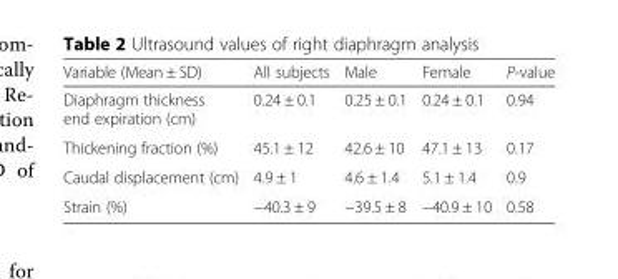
<table><thead><tr><td>Variable (Mean ± SD)</td><td>All subjects</td><td>Male</td><td>Female</td><td>P-value</td></tr></thead><tbody><tr><td>Diaphragm thickness end expiration (cm)</td><td>0.24 ± 0.1</td><td>0.25 ± 0.1</td><td>0.24 ± 0.1</td><td>0.94</td></tr><tr><td>Thickening fraction (%)</td><td>45.1 ± 12</td><td>42.6 ± 10</td><td>47.1 ± 13</td><td>0.17</td></tr><tr><td>Caudal displacement (cm)</td><td>4.9 ± 1</td><td>4.6 ± 1.4</td><td>5.1 ± 1.4</td><td>0.9</td></tr><tr><td>Strain (%)</td><td>−40.3 ± 9</td><td>−39.5 ± 8</td><td>−40.9 ± 10</td><td>0.58</td></tr></tbody></table>